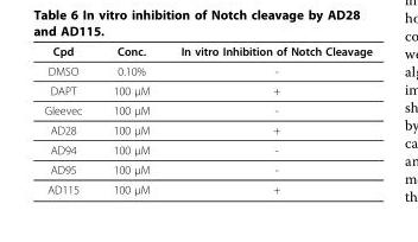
<table><thead><tr><td>Cpd</td><td>Conc.</td><td>In vitro Inhibition of Notch Cleavage</td></tr></thead><tbody><tr><td>DMSO</td><td>0.10%</td><td>-</td></tr><tr><td>DAPT</td><td>100 μM</td><td>+</td></tr><tr><td>Gleevec</td><td>100 μM</td><td>-</td></tr><tr><td>AD28</td><td>100 μM</td><td>+</td></tr><tr><td>AD94</td><td>100 μM</td><td>-</td></tr><tr><td>AD95</td><td>100 μM</td><td>-</td></tr><tr><td>AD115</td><td>100 μM</td><td>+</td></tr></tbody></table>